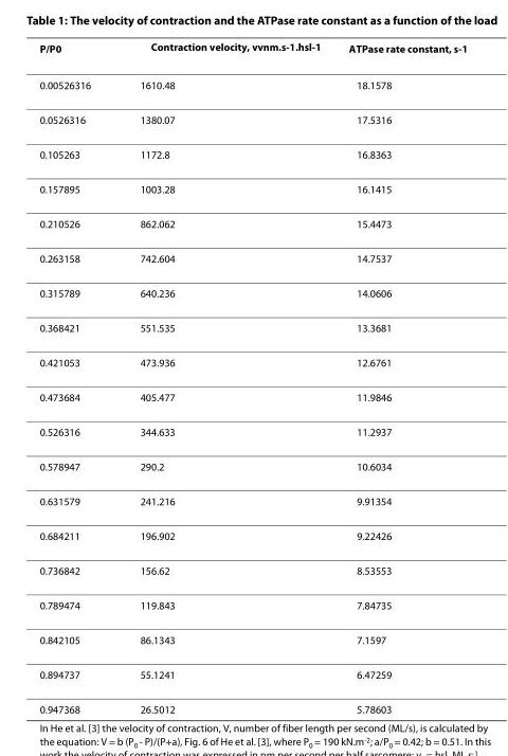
<table><thead><tr><td>P/P<sub>0</sub></td><td>Contraction velocity, v<sub>v</sub>nm.s<sup>-1</sup>.hsl<sup>-1</sup></td><td>ATPase rate constant, s<sup>-1</sup></td></tr></thead><tbody><tr><td>0.00526316</td><td>1610.48</td><td>18.1578</td></tr><tr><td>0.0526316</td><td>1380.07</td><td>17.5316</td></tr><tr><td>0.105263</td><td>1172.8</td><td>16.8363</td></tr><tr><td>0.157895</td><td>1003.28</td><td>16.1415</td></tr><tr><td>0.210526</td><td>862.062</td><td>15.4473</td></tr><tr><td>0.263158</td><td>742.604</td><td>14.7537</td></tr><tr><td>0.315789</td><td>640.236</td><td>14.0606</td></tr><tr><td>0.368421</td><td>551.535</td><td>13.3681</td></tr><tr><td>0.421053</td><td>473.936</td><td>12.6761</td></tr><tr><td>0.473684</td><td>405.477</td><td>11.9846</td></tr><tr><td>0.526316</td><td>344.633</td><td>11.2937</td></tr><tr><td>0.578947</td><td>290.2</td><td>10.6034</td></tr><tr><td>0.631579</td><td>241.216</td><td>9.91354</td></tr><tr><td>0.684211</td><td>196.902</td><td>9.22426</td></tr><tr><td>0.736842</td><td>156.62</td><td>8.53553</td></tr><tr><td>0.789474</td><td>119.843</td><td>7.84735</td></tr><tr><td>0.842105</td><td>86.1343</td><td>7.1597</td></tr><tr><td>0.894737</td><td>55.1241</td><td>6.47259</td></tr><tr><td>0.947368</td><td>26.5012</td><td>5.78603</td></tr></tbody></table>